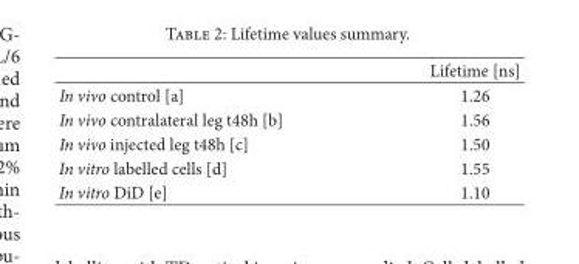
<table><thead><tr><td></td><td>Lifetime [ns]</td></tr></thead><tbody><tr><td>In vivo control [a]</td><td>1.26</td></tr><tr><td>In vivo contralateral leg t48h [b]</td><td>1.56</td></tr><tr><td>In vivo injected leg t48h [c]</td><td>1.50</td></tr><tr><td>In vitro labelled cells [d]</td><td>1.55</td></tr><tr><td>In vitro DiD [e]</td><td>1.10</td></tr></tbody></table>